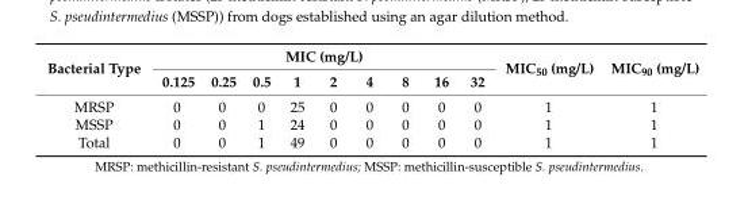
<table><thead><tr><td rowspan="2">Bacterial Type</td><td colspan="9">MIC (mg/L)</td><td rowspan="2">MIC<sub>50</sub> (mg/L)</td><td rowspan="2">MIC<sub>90</sub> (mg/L)</td></tr><tr><td>0.125</td><td>0.25</td><td>0.5</td><td>1</td><td>2</td><td>4</td><td>8</td><td>16</td><td>32</td></tr></thead><tbody><tr><td>MRSP</td><td>0</td><td>0</td><td>0</td><td>25</td><td>0</td><td>0</td><td>0</td><td>0</td><td>0</td><td>1</td><td>1</td></tr><tr><td>MSSP</td><td>0</td><td>0</td><td>1</td><td>24</td><td>0</td><td>0</td><td>0</td><td>0</td><td>0</td><td>1</td><td>1</td></tr><tr><td>Total</td><td>0</td><td>0</td><td>1</td><td>49</td><td>0</td><td>0</td><td>0</td><td>0</td><td>0</td><td>1</td><td>1</td></tr></tbody></table>